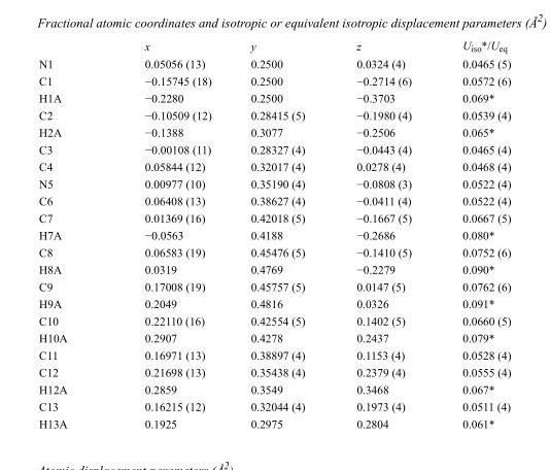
<table><thead><tr><td></td><td>x</td><td>y</td><td>z</td><td>U<sub>iso</sub>*/U<sub>eq</sub></td></tr></thead><tbody><tr><td>N1</td><td>0.05056 (13)</td><td>0.2500</td><td>0.0324 (4)</td><td>0.0465 (5)</td></tr><tr><td>C1</td><td>−0.15745 (18)</td><td>0.2500</td><td>−0.2714 (6)</td><td>0.0572 (6)</td></tr><tr><td>H1A</td><td>−0.2280</td><td>0.2500</td><td>−0.3703</td><td>0.069*</td></tr><tr><td>C2</td><td>−0.10509 (12)</td><td>0.28415 (5)</td><td>−0.1980 (4)</td><td>0.0539 (4)</td></tr><tr><td>H2A</td><td>−0.1388</td><td>0.3077</td><td>−0.2506</td><td>0.065*</td></tr><tr><td>C3</td><td>−0.00108 (11)</td><td>0.28327 (4)</td><td>−0.0443 (4)</td><td>0.0465 (4)</td></tr><tr><td>C4</td><td>0.05844 (12)</td><td>0.32017 (4)</td><td>0.0278 (4)</td><td>0.0468 (4)</td></tr><tr><td>N5</td><td>0.00977 (10)</td><td>0.35190 (4)</td><td>−0.0808 (3)</td><td>0.0522 (4)</td></tr><tr><td>C6</td><td>0.06408 (13)</td><td>0.38627 (4)</td><td>−0.0411 (4)</td><td>0.0522 (4)</td></tr><tr><td>C7</td><td>0.01369 (16)</td><td>0.42018 (5)</td><td>−0.1667 (5)</td><td>0.0667 (5)</td></tr><tr><td>H7A</td><td>−0.0563</td><td>0.4188</td><td>−0.2686</td><td>0.080*</td></tr><tr><td>C8</td><td>0.06583 (19)</td><td>0.45476 (5)</td><td>−0.1410 (5)</td><td>0.0752 (6)</td></tr><tr><td>H8A</td><td>0.0319</td><td>0.4769</td><td>−0.2279</td><td>0.090*</td></tr><tr><td>C9</td><td>0.17008 (19)</td><td>0.45757 (5)</td><td>0.0147 (5)</td><td>0.0762 (6)</td></tr><tr><td>H9A</td><td>0.2049</td><td>0.4816</td><td>0.0326</td><td>0.091*</td></tr><tr><td>C10</td><td>0.22110 (16)</td><td>0.42554 (5)</td><td>0.1402 (5)</td><td>0.0660 (5)</td></tr><tr><td>H10A</td><td>0.2907</td><td>0.4278</td><td>0.2437</td><td>0.079*</td></tr><tr><td>C11</td><td>0.16971 (13)</td><td>0.38897 (4)</td><td>0.1153 (4)</td><td>0.0528 (4)</td></tr><tr><td>C12</td><td>0.21698 (13)</td><td>0.35438 (4)</td><td>0.2379 (4)</td><td>0.0555 (4)</td></tr><tr><td>H12A</td><td>0.2859</td><td>0.3549</td><td>0.3468</td><td>0.067*</td></tr><tr><td>C13</td><td>0.16215 (12)</td><td>0.32044 (4)</td><td>0.1973 (4)</td><td>0.0511 (4)</td></tr><tr><td>H13A</td><td>0.1925</td><td>0.2975</td><td>0.2804</td><td>0.061*</td></tr></tbody></table>